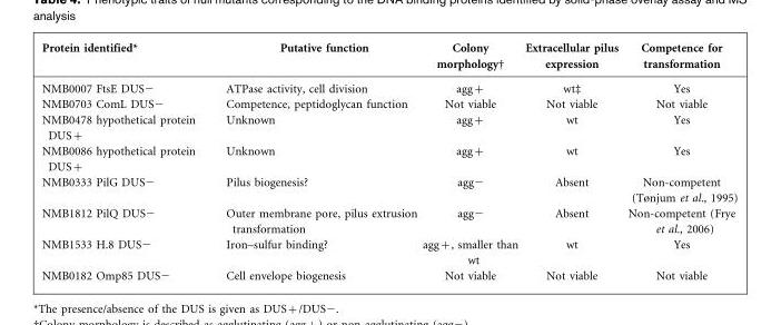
<table><thead><tr><td>Protein identified*</td><td>Putative function</td><td>Colony morphology†</td><td>Extracellular pilus expression</td><td>Competence for transformation</td></tr></thead><tbody><tr><td>NMB0007 FtsE DUS−</td><td>ATPase activity, cell division</td><td>agg+</td><td>wt‡</td><td>Yes</td></tr><tr><td>NMB0703 ComL DUS−</td><td>Competence, peptidoglycan function</td><td>Not viable</td><td>Not viable</td><td>Not viable</td></tr><tr><td>NMB0478 hypothetical protein DUS+</td><td>Unknown</td><td>agg+</td><td>wt</td><td>Yes</td></tr><tr><td>NMB0086 hypothetical protein DUS+</td><td>Unknown</td><td>agg+</td><td>wt</td><td>Yes</td></tr><tr><td>NMB0333 PilG DUS−</td><td>Pilus biogenesis?</td><td>agg−</td><td>Absent</td><td>Non-competent (Tønjum et al., 1995)</td></tr><tr><td>NMB1812 PilQ DUS−</td><td>Outer membrane pore, pilus extrusion transformation</td><td>agg−</td><td>Absent</td><td>Non-competent (Frye et al., 2006)</td></tr><tr><td>NMB1533 H.8 DUS−</td><td>Iron–sulfur binding?</td><td>agg+, smaller than wt</td><td>wt</td><td>Yes</td></tr><tr><td>NMB0182 Omp85 DUS−</td><td>Cell envelope biogenesis</td><td>Not viable</td><td>Not viable</td><td>Not viable</td></tr></tbody></table>